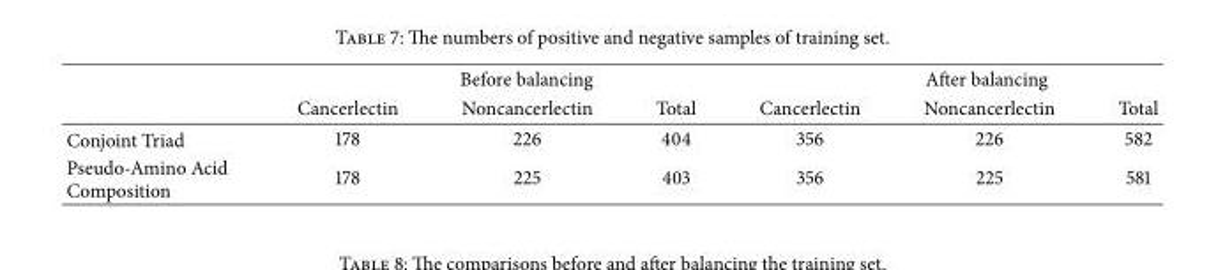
<table><thead><tr><td rowspan="2"></td><td colspan="3">Before balancing</td><td colspan="3">After balancing</td></tr><tr><td>Cancerlectin</td><td>Noncancerlectin</td><td>Total</td><td>Cancerlectin</td><td>Noncancerlectin</td><td>Total</td></tr></thead><tbody><tr><td>Conjoint Triad</td><td>178</td><td>226</td><td>404</td><td>356</td><td>226</td><td>582</td></tr><tr><td>Pseudo-Amino Acid Composition</td><td>178</td><td>225</td><td>403</td><td>356</td><td>225</td><td>581</td></tr></tbody></table>